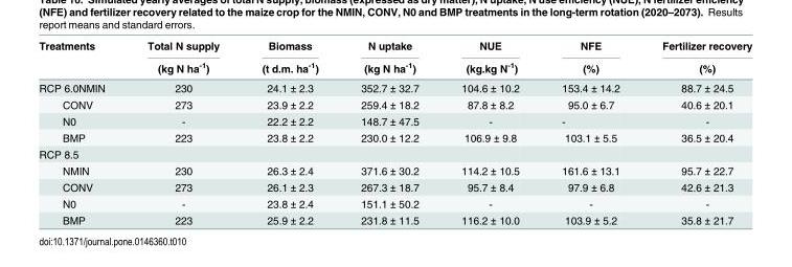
<table><thead><tr><td rowspan="2">Treatments</td><td rowspan="2">Total N supply (kg N ha<sup>-1</sup>)</td><td rowspan="2">Biomass (t d.m. ha<sup>-1</sup>)</td><td rowspan="2">N uptake (kg N ha<sup>-1</sup>)</td><td rowspan="2">NUE (kg.kg N<sup>-1</sup>)</td><td rowspan="2">NFE (%)</td><td rowspan="2">Fertilizer recovery (%)</td></tr><tr></tr></thead><tbody><tr><td>RCP 6.0NMIN</td><td>230</td><td>24.1 ± 2.3</td><td>352.7 ± 32.7</td><td>104.6 ± 10.2</td><td>153.4 ± 14.2</td><td>88.7 ± 24.5</td></tr><tr><td>CONV</td><td>273</td><td>23.9 ± 2.2</td><td>259.4 ± 18.2</td><td>87.8 ± 8.2</td><td>95.0 ± 6.7</td><td>40.6 ± 20.1</td></tr><tr><td>N0</td><td>-</td><td>22.2 ± 2.2</td><td>148.7 ± 47.5</td><td>-</td><td>-</td><td>-</td></tr><tr><td>BMP</td><td>223</td><td>23.8 ± 2.2</td><td>230.0 ± 12.2</td><td>106.9 ± 9.8</td><td>103.1 ± 5.5</td><td>36.5 ± 20.4</td></tr><tr><td colspan="7">RCP 8.5</td></tr><tr><td>NMIN</td><td>230</td><td>26.3 ± 2.4</td><td>371.6 ± 30.2</td><td>114.2 ± 10.5</td><td>161.6 ± 13.1</td><td>95.7 ± 22.7</td></tr><tr><td>CONV</td><td>273</td><td>26.1 ± 2.3</td><td>267.3 ± 18.7</td><td>95.7 ± 8.4</td><td>97.9 ± 6.8</td><td>42.6 ± 21.3</td></tr><tr><td>N0</td><td>-</td><td>23.8 ± 2.4</td><td>151.1 ± 50.2</td><td>-</td><td>-</td><td>-</td></tr><tr><td>BMP</td><td>223</td><td>25.9 ± 2.2</td><td>231.8 ± 11.5</td><td>116.2 ± 10.0</td><td>103.9 ± 5.2</td><td>35.8 ± 21.7</td></tr></tbody></table>